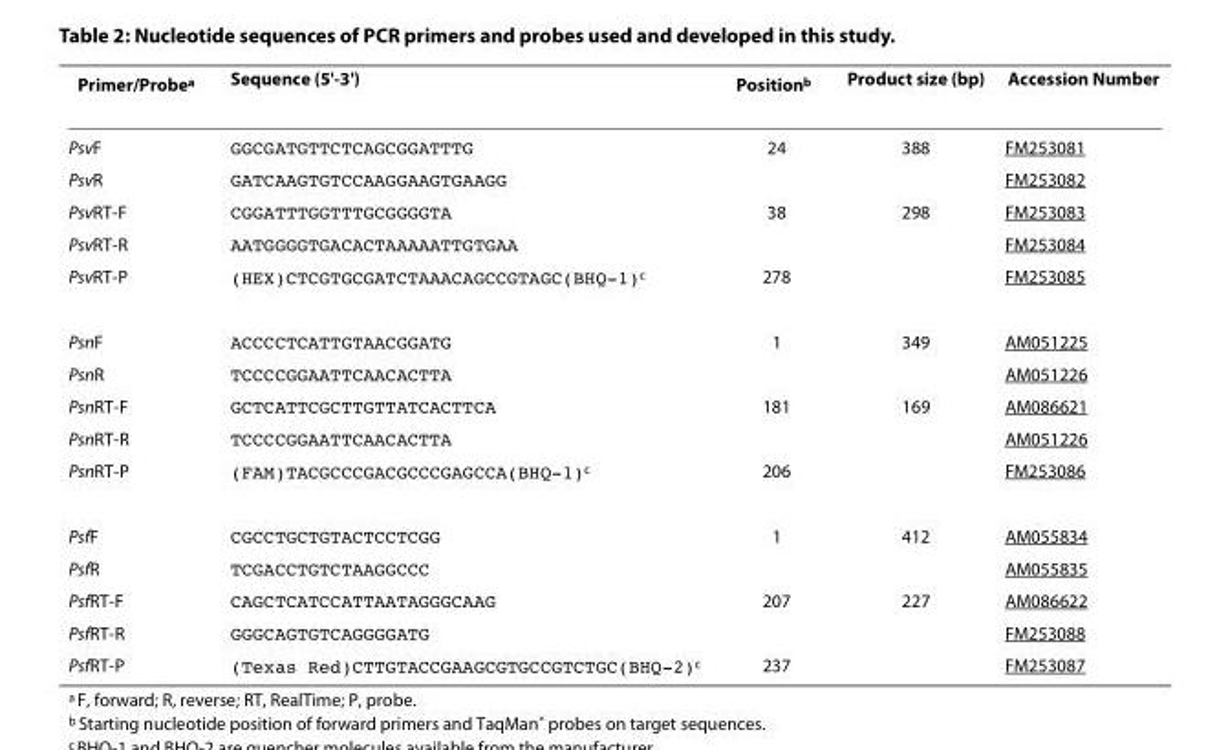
<table><thead><tr><td>Primer/Probe<sup>a</sup></td><td>Sequence (5&#x27;-3&#x27;)</td><td>Position<sup>b</sup></td><td>Product size (bp)</td><td>Accession Number</td></tr></thead><tbody><tr><td>PsvF</td><td>GGCGATGTTCTCAGCGGATTTG</td><td>24</td><td>388</td><td>FM253081</td></tr><tr><td>PsvR</td><td>GATCAAGTGTCCAAGGAAGTGAAGG</td><td></td><td></td><td>FM253082</td></tr><tr><td>PsvRT-F</td><td>CGGATTTGGTTTGCGGGGTA</td><td>38</td><td>298</td><td>FM253083</td></tr><tr><td>PsvRT-R</td><td>AATGGGGTGACACTAAAAATTGTGAA</td><td></td><td></td><td>FM253084</td></tr><tr><td>PsvRT-P</td><td>(HEX)CTCGTGCGATCTAAACAGCCGTAGC(BHQ-1)<sup>c</sup></td><td>278</td><td></td><td>FM253085</td></tr><tr><td>PsnF</td><td>ACCCCTCATTGTAACGGATG</td><td>1</td><td>349</td><td>AM051225</td></tr><tr><td>PsnR</td><td>TCCCCGGAATTCAACACTTA</td><td></td><td></td><td>AM051226</td></tr><tr><td>PsnRT-F</td><td>GCTCATTCGCTTGTTATCACTTCA</td><td>181</td><td>169</td><td>AM086621</td></tr><tr><td>PsnRT-R</td><td>TCCCCGGAATTCAACACTTA</td><td></td><td></td><td>AM051226</td></tr><tr><td>PsnRT-P</td><td>(FAM)TACGCCCGACGCCCGAGCCA(BHQ-1)<sup>c</sup></td><td>206</td><td></td><td>FM253086</td></tr><tr><td>PsfF</td><td>CGCCTGCTGTACTCCTCGG</td><td>1</td><td>412</td><td>AM055834</td></tr><tr><td>PsfR</td><td>TCGACCTGTCTAAGGCCC</td><td></td><td></td><td>AM055835</td></tr><tr><td>PsfRT-F</td><td>CAGCTCATCCATTAATAGGGCAAG</td><td>207</td><td>227</td><td>AM086622</td></tr><tr><td>PsfRT-R</td><td>GGGCAGTGTCAGGGGATG</td><td></td><td></td><td>FM253088</td></tr><tr><td>PsfRT-P</td><td>(Texas Red)CTTGTACCGAAGCGTGCCGTCTGC(BHQ-2)<sup>c</sup></td><td>237</td><td></td><td>FM253087</td></tr></tbody></table>